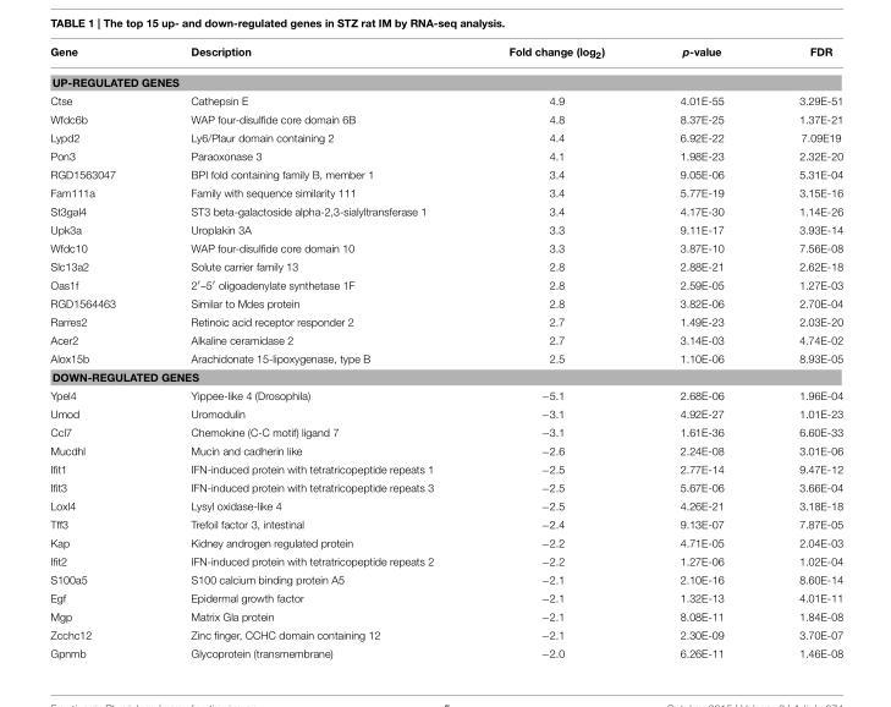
<table><thead><tr><td>Gene</td><td>Description</td><td>Fold change (log<sub>2</sub>)</td><td>p-value</td><td>FDR</td></tr></thead><tbody><tr><td colspan="5">UP-REGULATED GENES</td></tr><tr><td>Ctse</td><td>Cathepsin E</td><td>4.9</td><td>4.01E-55</td><td>3.29E-51</td></tr><tr><td>Wfdc6b</td><td>WAP four-disulfide core domain 6B</td><td>4.8</td><td>8.37E-25</td><td>1.37E-21</td></tr><tr><td>Lypd2</td><td>Ly6/Plaur domain containing 2</td><td>4.4</td><td>6.92E-22</td><td>7.09E19</td></tr><tr><td>Pon3</td><td>Paraoxonase 3</td><td>4.1</td><td>1.98E-23</td><td>2.32E-20</td></tr><tr><td>RGD1563047</td><td>BPI fold containing family B, member 1</td><td>3.4</td><td>9.05E-06</td><td>5.31E-04</td></tr><tr><td>Fam111a</td><td>Family with sequence similarity 111</td><td>3.4</td><td>5.77E-19</td><td>3.15E-16</td></tr><tr><td>St3gal4</td><td>ST3 beta-galactoside alpha-2,3-sialyltransferase 1</td><td>3.4</td><td>4.17E-30</td><td>1.14E-26</td></tr><tr><td>Upk3a</td><td>Uroplakin 3A</td><td>3.3</td><td>9.11E-17</td><td>3.93E-14</td></tr><tr><td>Wfdc10</td><td>WAP four-disulfide core domain 10</td><td>3.3</td><td>3.87E-10</td><td>7.56E-08</td></tr><tr><td>Slc13a2</td><td>Solute carrier family 13</td><td>2.8</td><td>2.88E-21</td><td>2.62E-18</td></tr><tr><td>Oas1f</td><td>2′–5′ oligoadenylate synthetase 1F</td><td>2.8</td><td>2.59E-05</td><td>1.27E-03</td></tr><tr><td>RGD1564463</td><td>Similar to Mdes protein</td><td>2.8</td><td>3.82E-06</td><td>2.70E-04</td></tr><tr><td>Rarres2</td><td>Retinoic acid receptor responder 2</td><td>2.7</td><td>1.49E-23</td><td>2.03E-20</td></tr><tr><td>Acer2</td><td>Alkaline ceramidase 2</td><td>2.7</td><td>3.14E-03</td><td>4.74E-02</td></tr><tr><td>Alox15b</td><td>Arachidonate 15-lipoxygenase, type B</td><td>2.5</td><td>1.10E-06</td><td>8.93E-05</td></tr><tr><td colspan="5">DOWN-REGULATED GENES</td></tr><tr><td>Ypel4</td><td>Yippee-like 4 (Drosophila)</td><td>−5.1</td><td>2.68E-06</td><td>1.96E-04</td></tr><tr><td>Umod</td><td>Uromodulin</td><td>−3.1</td><td>4.92E-27</td><td>1.01E-23</td></tr><tr><td>Ccl7</td><td>Chemokine (C-C motif) ligand 7</td><td>−3.1</td><td>1.61E-36</td><td>6.60E-33</td></tr><tr><td>Mucdhl</td><td>Mucin and cadherin like</td><td>−2.6</td><td>2.24E-08</td><td>3.01E-06</td></tr><tr><td>Ifit1</td><td>IFN-induced protein with tetratricopeptide repeats 1</td><td>−2.5</td><td>2.77E-14</td><td>9.47E-12</td></tr><tr><td>Ifit3</td><td>IFN-induced protein with tetratricopeptide repeats 3</td><td>−2.5</td><td>5.67E-06</td><td>3.66E-04</td></tr><tr><td>Loxl4</td><td>Lysyl oxidase-like 4</td><td>−2.5</td><td>4.26E-21</td><td>3.18E-18</td></tr><tr><td>Tff3</td><td>Trefoil factor 3, intestinal</td><td>−2.4</td><td>9.13E-07</td><td>7.87E-05</td></tr><tr><td>Kap</td><td>Kidney androgen regulated protein</td><td>−2.2</td><td>4.71E-05</td><td>2.04E-03</td></tr><tr><td>Ifit2</td><td>IFN-induced protein with tetratricopeptide repeats 2</td><td>−2.2</td><td>1.27E-06</td><td>1.02E-04</td></tr><tr><td>S100a5</td><td>S100 calcium binding protein A5</td><td>−2.1</td><td>2.10E-16</td><td>8.60E-14</td></tr><tr><td>Egf</td><td>Epidermal growth factor</td><td>−2.1</td><td>1.32E-13</td><td>4.01E-11</td></tr><tr><td>Mgp</td><td>Matrix Gla protein</td><td>−2.1</td><td>8.08E-11</td><td>1.84E-08</td></tr><tr><td>Zcchc12</td><td>Zinc finger, CCHC domain containing 12</td><td>−2.1</td><td>2.30E-09</td><td>3.70E-07</td></tr><tr><td>Gpnmb</td><td>Glycoprotein (transmembrane)</td><td>−2.0</td><td>6.26E-11</td><td>1.46E-08</td></tr></tbody></table>